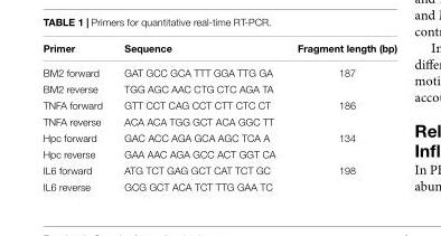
<table><thead><tr><td>Primer</td><td>Sequence</td><td>Fragment length (bp)</td></tr></thead><tbody><tr><td>BM2 forward</td><td>GAT GCC GCA TTT GGA TTG GA</td><td>187</td></tr><tr><td>BM2 reverse</td><td>TGG AGC AAC CTG CTC AGA TA</td><td></td></tr><tr><td>TNFA forward</td><td>GTT CCT CAG CCT CTT CTC CT</td><td>186</td></tr><tr><td>TNFA reverse</td><td>ACA ACA TGG GCT ACA GGC TT</td><td></td></tr><tr><td>Hpc forward</td><td>GAC ACC AGA GCA AGC TCA A</td><td>134</td></tr><tr><td>Hpc reverse</td><td>GAA AAC AGA GCC ACT GGT CA</td><td></td></tr><tr><td>IL6 forward</td><td>ATG TCT GAG GCT CAT TCT GC</td><td>198</td></tr><tr><td>IL6 reverse</td><td>GCG GCT ACA TCT TTG GAA TC</td><td></td></tr></tbody></table>